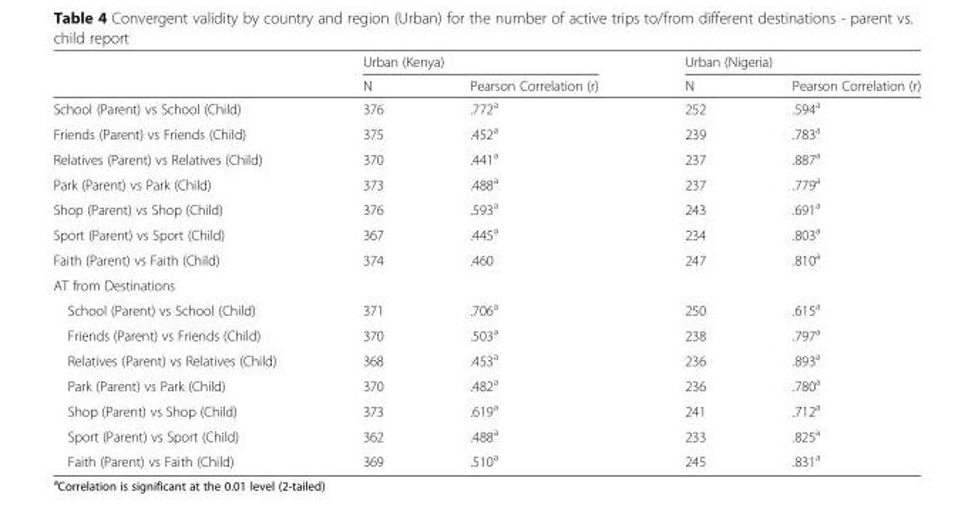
<table><thead><tr><td rowspan="2"></td><td colspan="2">Urban (Kenya)</td><td colspan="2">Urban (Nigeria)</td></tr><tr><td>N</td><td>Pearson Correlation (r)</td><td>N</td><td>Pearson Correlation (r)</td></tr></thead><tbody><tr><td>School (Parent) vs School (Child)</td><td>376</td><td>.772<sup>a</sup></td><td>252</td><td>.594<sup>a</sup></td></tr><tr><td>Friends (Parent) vs Friends (Child)</td><td>375</td><td>.452<sup>a</sup></td><td>239</td><td>.783<sup>a</sup></td></tr><tr><td>Relatives (Parent) vs Relatives (Child)</td><td>370</td><td>.441<sup>a</sup></td><td>237</td><td>.887<sup>a</sup></td></tr><tr><td>Park (Parent) vs Park (Child)</td><td>373</td><td>.488<sup>a</sup></td><td>237</td><td>.779<sup>a</sup></td></tr><tr><td>Shop (Parent) vs Shop (Child)</td><td>376</td><td>.593<sup>a</sup></td><td>243</td><td>.691<sup>a</sup></td></tr><tr><td>Sport (Parent) vs Sport (Child)</td><td>367</td><td>.445<sup>a</sup></td><td>234</td><td>.803<sup>a</sup></td></tr><tr><td>Faith (Parent) vs Faith (Child)</td><td>374</td><td>.460</td><td>247</td><td>.810<sup>a</sup></td></tr><tr><td colspan="5">AT from Destinations</td></tr><tr><td>School (Parent) vs School (Child)</td><td>371</td><td>.706<sup>a</sup></td><td>250</td><td>.615<sup>a</sup></td></tr><tr><td>Friends (Parent) vs Friends (Child)</td><td>370</td><td>.503<sup>a</sup></td><td>238</td><td>.797<sup>a</sup></td></tr><tr><td>Relatives (Parent) vs Relatives (Child)</td><td>368</td><td>.453<sup>a</sup></td><td>236</td><td>.893<sup>a</sup></td></tr><tr><td>Park (Parent) vs Park (Child)</td><td>370</td><td>.482<sup>a</sup></td><td>236</td><td>.780<sup>a</sup></td></tr><tr><td>Shop (Parent) vs Shop (Child)</td><td>373</td><td>.619<sup>a</sup></td><td>241</td><td>.712<sup>a</sup></td></tr><tr><td>Sport (Parent) vs Sport (Child)</td><td>362</td><td>.488<sup>a</sup></td><td>233</td><td>.825<sup>a</sup></td></tr><tr><td>Faith (Parent) vs Faith (Child)</td><td>369</td><td>.510<sup>a</sup></td><td>245</td><td>.831<sup>a</sup></td></tr></tbody></table>